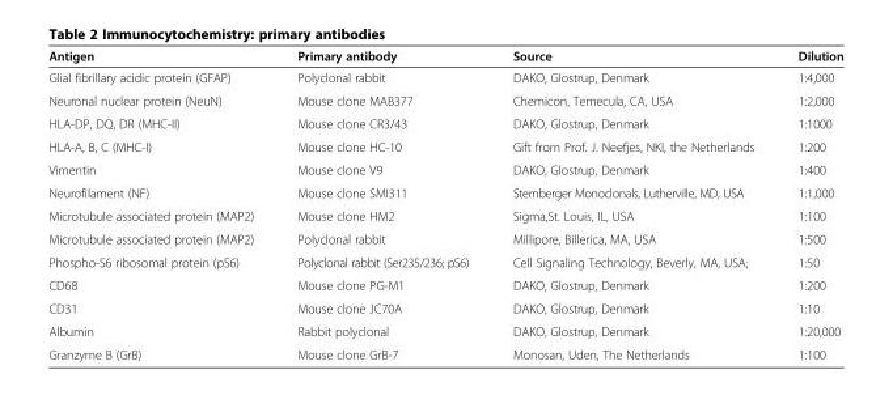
<table><thead><tr><td>Antigen</td><td>Primary antibody</td><td>Source</td><td>Dilution</td></tr></thead><tbody><tr><td>Glial fibrillary acidic protein (GFAP)</td><td>Polyclonal rabbit</td><td>DAKO, Glostrup, Denmark</td><td>1:4,000</td></tr><tr><td>Neuronal nuclear protein (NeuN)</td><td>Mouse clone MAB377</td><td>Chemicon, Temecula, CA, USA</td><td>1:2,000</td></tr><tr><td>HLA-DP, DQ, DR (MHC-II)</td><td>Mouse clone CR3/43</td><td>DAKO, Glostrup, Denmark</td><td>1:1000</td></tr><tr><td>HLA-A, B, C (MHC-I)</td><td>Mouse clone HC-10</td><td>Gift from Prof. J. Neefjes, NKI, the Netherlands</td><td>1:200</td></tr><tr><td>Vimentin</td><td>Mouse clone V9</td><td>DAKO, Glostrup, Denmark</td><td>1:400</td></tr><tr><td>Neurofilament (NF)</td><td>Mouse clone SMI311</td><td>Sternberger Monoclonals, Lutherville, MD, USA</td><td>1:1,000</td></tr><tr><td>Microtubule associated protein (MAP2)</td><td>Mouse clone HM2</td><td>Sigma,St. Louis, IL, USA</td><td>1:100</td></tr><tr><td>Microtubule associated protein (MAP2)</td><td>Polyclonal rabbit</td><td>Millipore, Billerica, MA, USA</td><td>1:500</td></tr><tr><td>Phospho-S6 ribosomal protein (pS6)</td><td>Polyclonal rabbit (Ser235/236; pS6)</td><td>Cell Signaling Technology, Beverly, MA, USA;</td><td>1:50</td></tr><tr><td>CD68</td><td>Mouse clone PG-M1</td><td>DAKO, Glostrup, Denmark</td><td>1:200</td></tr><tr><td>CD31</td><td>Mouse clone JC70A</td><td>DAKO, Glostrup, Denmark</td><td>1:10</td></tr><tr><td>Albumin</td><td>Rabbit polyclonal</td><td>DAKO, Glostrup, Denmark</td><td>1:20,000</td></tr><tr><td>Granzyme B (GrB)</td><td>Mouse clone GrB-7</td><td>Monosan, Uden, The Netherlands</td><td>1:100</td></tr></tbody></table>